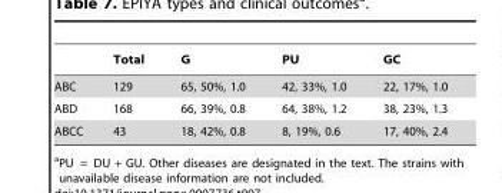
<table><thead><tr><td></td><td>Total</td><td>G</td><td>PU</td><td>GC</td></tr></thead><tbody><tr><td>ABC</td><td>129</td><td>65, 50%, 1.0</td><td>42, 33%, 1.0</td><td>22, 17%, 1.0</td></tr><tr><td>ABD</td><td>168</td><td>66, 39%, 0.8</td><td>64, 38%, 1.2</td><td>38, 23%, 1.3</td></tr><tr><td>ABCC</td><td>43</td><td>18, 42%, 0.8</td><td>8, 19%, 0.6</td><td>17, 40%, 2.4</td></tr></tbody></table>